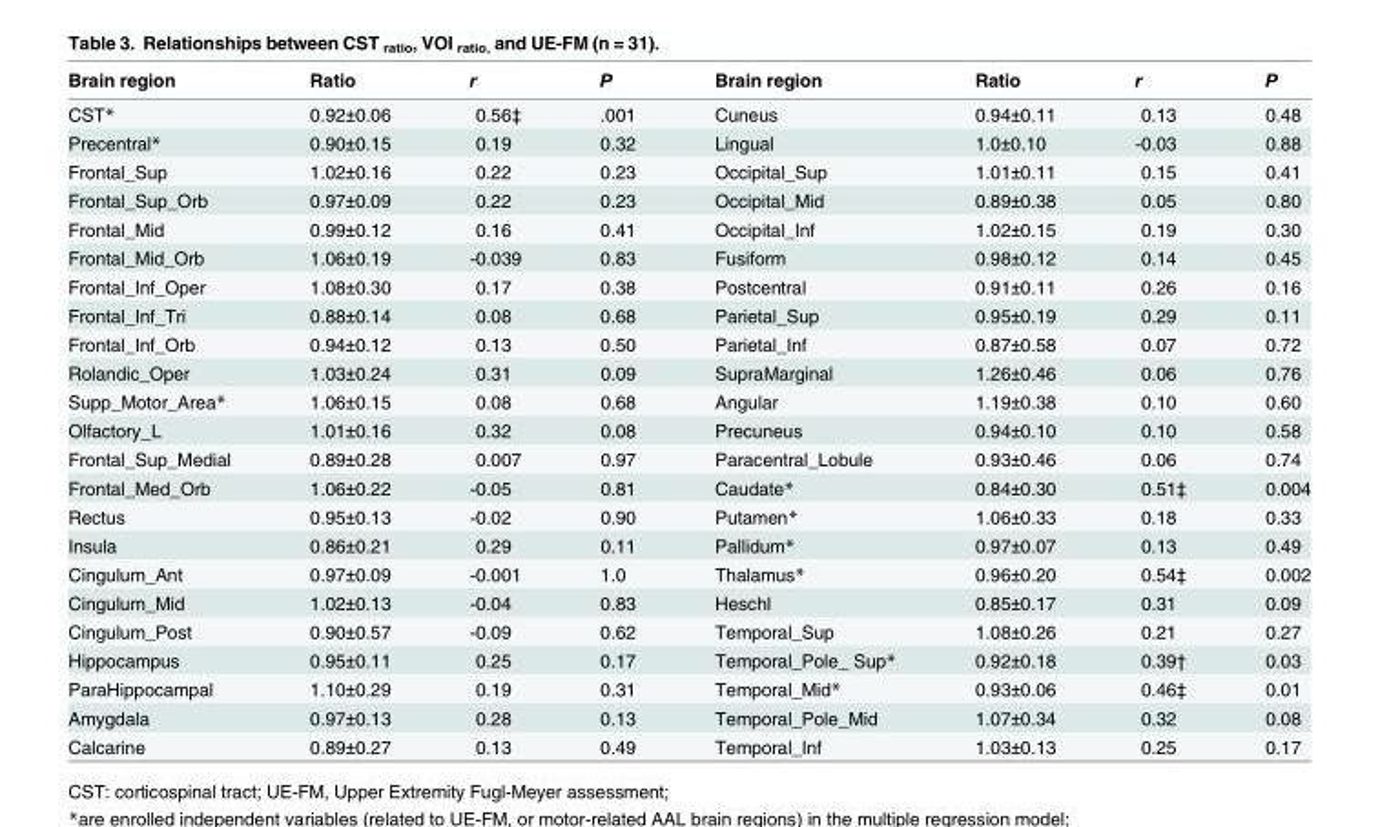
<table><thead><tr><td>Brain region</td><td>Ratio</td><td>r</td><td>P</td><td>Brain region</td><td>Ratio</td><td>r</td><td>P</td></tr></thead><tbody><tr><td>CST*</td><td>0.92±0.06</td><td>0.56‡</td><td>.001</td><td>Cuneus</td><td>0.94±0.11</td><td>0.13</td><td>0.48</td></tr><tr><td>Precentral*</td><td>0.90±0.15</td><td>0.19</td><td>0.32</td><td>Lingual</td><td>1.0±0.10</td><td>-0.03</td><td>0.88</td></tr><tr><td>Frontal_Sup</td><td>1.02±0.16</td><td>0.22</td><td>0.23</td><td>Occipital_Sup</td><td>1.01±0.11</td><td>0.15</td><td>0.41</td></tr><tr><td>Frontal_Sup_Orb</td><td>0.97±0.09</td><td>0.22</td><td>0.23</td><td>Occipital_Mid</td><td>0.89±0.38</td><td>0.05</td><td>0.80</td></tr><tr><td>Frontal_Mid</td><td>0.99±0.12</td><td>0.16</td><td>0.41</td><td>Occipital_Inf</td><td>1.02±0.15</td><td>0.19</td><td>0.30</td></tr><tr><td>Frontal_Mid_Orb</td><td>1.06±0.19</td><td>-0.039</td><td>0.83</td><td>Fusiform</td><td>0.98±0.12</td><td>0.14</td><td>0.45</td></tr><tr><td>Frontal_Inf_Oper</td><td>1.08±0.30</td><td>0.17</td><td>0.38</td><td>Postcentral</td><td>0.91±0.11</td><td>0.26</td><td>0.16</td></tr><tr><td>Frontal_Inf_Tri</td><td>0.88±0.14</td><td>0.08</td><td>0.68</td><td>Parietal_Sup</td><td>0.95±0.19</td><td>0.29</td><td>0.11</td></tr><tr><td>Frontal_Inf_Orb</td><td>0.94±0.12</td><td>0.13</td><td>0.50</td><td>Parietal_Inf</td><td>0.87±0.58</td><td>0.07</td><td>0.72</td></tr><tr><td>Rolandic_Oper</td><td>1.03±0.24</td><td>0.31</td><td>0.09</td><td>SupraMarginal</td><td>1.26±0.46</td><td>0.06</td><td>0.76</td></tr><tr><td>Supp_Motor_Area*</td><td>1.06±0.15</td><td>0.08</td><td>0.68</td><td>Angular</td><td>1.19±0.38</td><td>0.10</td><td>0.60</td></tr><tr><td>Olfactory_L</td><td>1.01±0.16</td><td>0.32</td><td>0.08</td><td>Precuneus</td><td>0.94±0.10</td><td>0.10</td><td>0.58</td></tr><tr><td>Frontal_Sup_Medial</td><td>0.89±0.28</td><td>0.007</td><td>0.97</td><td>Paracentral_Lobule</td><td>0.93±0.46</td><td>0.06</td><td>0.74</td></tr><tr><td>Frontal_Med_Orb</td><td>1.06±0.22</td><td>-0.05</td><td>0.81</td><td>Caudate*</td><td>0.84±0.30</td><td>0.51‡</td><td>0.004</td></tr><tr><td>Rectus</td><td>0.95±0.13</td><td>-0.02</td><td>0.90</td><td>Putamen*</td><td>1.06±0.33</td><td>0.18</td><td>0.33</td></tr><tr><td>Insula</td><td>0.86±0.21</td><td>0.29</td><td>0.11</td><td>Pallidum*</td><td>0.97±0.07</td><td>0.13</td><td>0.49</td></tr><tr><td>Cingulum_Ant</td><td>0.97±0.09</td><td>-0.001</td><td>1.0</td><td>Thalamus*</td><td>0.96±0.20</td><td>0.54‡</td><td>0.002</td></tr><tr><td>Cingulum_Mid</td><td>1.02±0.13</td><td>-0.04</td><td>0.83</td><td>Heschl</td><td>0.85±0.17</td><td>0.31</td><td>0.09</td></tr><tr><td>Cingulum_Post</td><td>0.90±0.57</td><td>-0.09</td><td>0.62</td><td>Temporal_Sup</td><td>1.08±0.26</td><td>0.21</td><td>0.27</td></tr><tr><td>Hippocampus</td><td>0.95±0.11</td><td>0.25</td><td>0.17</td><td>Temporal_Pole_ Sup*</td><td>0.92±0.18</td><td>0.39†</td><td>0.03</td></tr><tr><td>ParaHippocampal</td><td>1.10±0.29</td><td>0.19</td><td>0.31</td><td>Temporal_Mid*</td><td>0.93±0.06</td><td>0.46‡</td><td>0.01</td></tr><tr><td>Amygdala</td><td>0.97±0.13</td><td>0.28</td><td>0.13</td><td>Temporal_Pole_Mid</td><td>1.07±0.34</td><td>0.32</td><td>0.08</td></tr><tr><td>Calcarine</td><td>0.89±0.27</td><td>0.13</td><td>0.49</td><td>Temporal_Inf</td><td>1.03±0.13</td><td>0.25</td><td>0.17</td></tr></tbody></table>